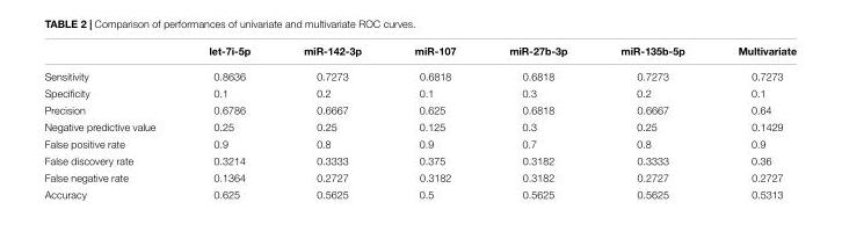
<table><thead><tr><td></td><td>let-7i-5p</td><td>miR-142-3p</td><td>miR-107</td><td>miR-27b-3p</td><td>miR-135b-5p</td><td>Multivariate</td></tr></thead><tbody><tr><td>Sensitivity</td><td>0.8636</td><td>0.7273</td><td>0.6818</td><td>0.6818</td><td>0.7273</td><td>0.7273</td></tr><tr><td>Specificity</td><td>0.1</td><td>0.2</td><td>0.1</td><td>0.3</td><td>0.2</td><td>0.1</td></tr><tr><td>Precision</td><td>0.6786</td><td>0.6667</td><td>0.625</td><td>0.6818</td><td>0.6667</td><td>0.64</td></tr><tr><td>Negative predictive value</td><td>0.25</td><td>0.25</td><td>0.125</td><td>0.3</td><td>0.25</td><td>0.1429</td></tr><tr><td>False positive rate</td><td>0.9</td><td>0.8</td><td>0.9</td><td>0.7</td><td>0.8</td><td>0.9</td></tr><tr><td>False discovery rate</td><td>0.3214</td><td>0.3333</td><td>0.375</td><td>0.3182</td><td>0.3333</td><td>0.36</td></tr><tr><td>False negative rate</td><td>0.1364</td><td>0.2727</td><td>0.3182</td><td>0.3182</td><td>0.2727</td><td>0.2727</td></tr><tr><td>Accuracy</td><td>0.625</td><td>0.5625</td><td>0.5</td><td>0.5625</td><td>0.5625</td><td>0.5313</td></tr></tbody></table>